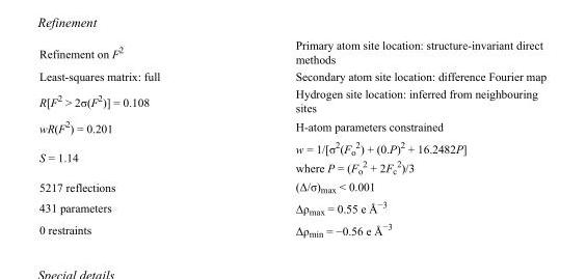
<table><tbody><tr><td>Refinement on F<sup>2</sup></td><td>Primary atom site location: structure-invariant direct methods</td></tr><tr><td>Least-squares matrix: full</td><td>Secondary atom site location: difference Fourier map</td></tr><tr><td>R[F<sup>2</sup> &gt; 2σ(F<sup>2</sup>)] = 0.108</td><td>Hydrogen site location: inferred from neighbouring sites</td></tr><tr><td>wR(F<sup>2</sup>) = 0.201</td><td>H-atom parameters constrained</td></tr><tr><td>S = 1.14</td><td>w = 1/[σ<sup>2</sup>(F<sub>o</sub> <sup>2</sup>) + (0.P)<sup>2</sup> + 16.2482P] where P = (F<sub>o</sub> <sup>2</sup> + 2F<sub>c</sub> <sup>2</sup>)/3</td></tr><tr><td>5217 reflections</td><td>(Δ/σ)<sub>max</sub> &lt; 0.001</td></tr><tr><td>431 parameters</td><td>Δρ<sub>max</sub> = 0.55 e Å<sup>−3</sup></td></tr><tr><td>0 restraints</td><td>Δρ<sub>min</sub> = −0.56 e Å<sup>−3</sup></td></tr></tbody></table>